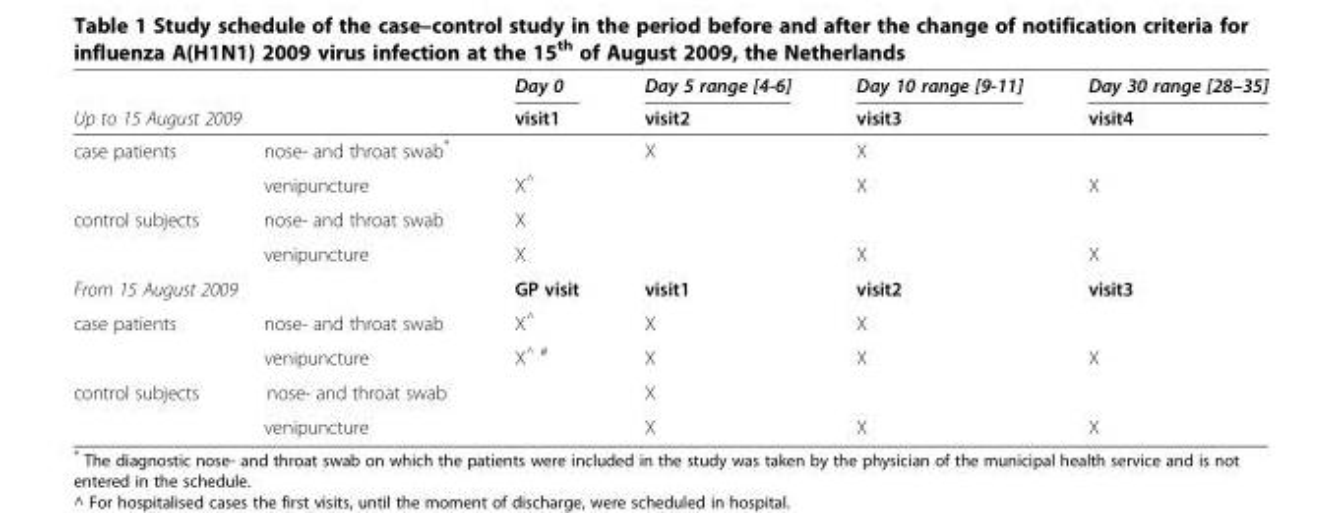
<table><thead><tr><td></td><td></td><td>Day 0</td><td>Day 5 range [4-6]</td><td>Day 10 range [9-11]</td><td>Day 30 range [28–35]</td></tr></thead><tbody><tr><td colspan="2">Up to 15 August 2009</td><td>visit1</td><td>visit2</td><td>visit3</td><td>visit4</td></tr><tr><td rowspan="2">case patients</td><td>nose- and throat swab*</td><td></td><td>X</td><td>X</td><td></td></tr><tr><td>venipuncture</td><td>X<sup>^</sup></td><td></td><td>X</td><td>X</td></tr><tr><td rowspan="2">control subjects</td><td>nose- and throat swab</td><td>X</td><td></td><td></td><td></td></tr><tr><td>venipuncture</td><td>X</td><td></td><td>X</td><td>X</td></tr><tr><td colspan="2">From 15 August 2009</td><td>GP visit</td><td>visit1</td><td>visit2</td><td>visit3</td></tr><tr><td rowspan="2">case patients</td><td>nose- and throat swab</td><td>X<sup>^</sup></td><td>X</td><td>X</td><td></td></tr><tr><td>venipuncture</td><td>X^ #</td><td>X</td><td>X</td><td>X</td></tr><tr><td rowspan="2">control subjects</td><td>nose- and throat swab</td><td></td><td>X</td><td></td><td></td></tr><tr><td>venipuncture</td><td></td><td>X</td><td>X</td><td>X</td></tr></tbody></table>